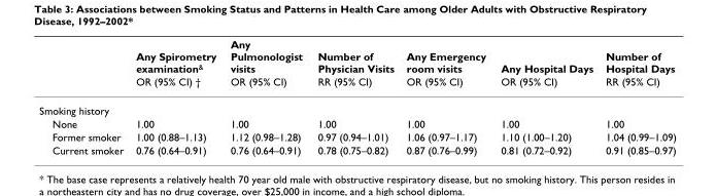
<table><thead><tr><td rowspan="2"></td><td rowspan="2">Any Spirometry examination<sup>&amp;</sup> OR (95% CI) †</td><td rowspan="2">Any Pulmonologist visits OR (95% CI)</td><td rowspan="2">Number of Physician Visits RR (95% CI)</td><td rowspan="2">Any Emergency room visits OR (95% CI)</td><td rowspan="2">Any Hospital Days OR (95% CI)</td><td rowspan="2">Number of Hospital Days RR (95% CI)</td></tr><tr></tr></thead><tbody><tr><td colspan="7">Smoking history</td></tr><tr><td>None</td><td>1.00</td><td>1.00</td><td>1.00</td><td>1.00</td><td>1.00</td><td>1.00</td></tr><tr><td>Former smoker</td><td>1.00 (0.88–1.13)</td><td>1.12 (0.98–1.28)</td><td>0.97 (0.94–1.01)</td><td>1.06 (0.97–1.17)</td><td>1.10 (1.00–1.20)</td><td>1.04 (0.99–1.09)</td></tr><tr><td>Current smoker</td><td>0.76 (0.64–0.91)</td><td>0.76 (0.64–0.91)</td><td>0.78 (0.75–0.82)</td><td>0.87 (0.76–0.99)</td><td>0.81 (0.72–0.92)</td><td>0.91 (0.85–0.97)</td></tr></tbody></table>